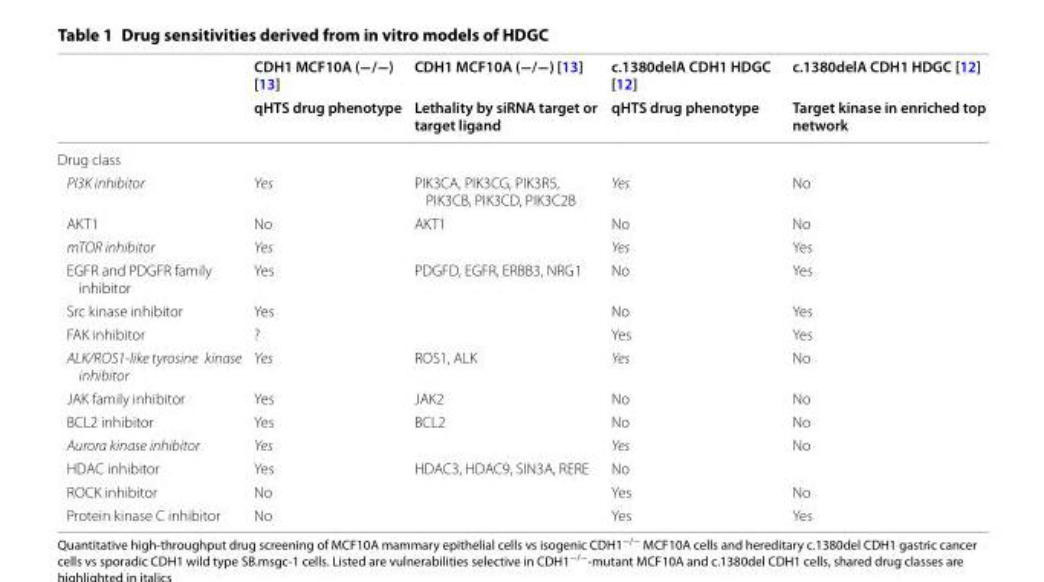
<table><thead><tr><td rowspan="2"></td><td rowspan="2">CDH1 MCF10A (−/−) [13] qHTS drug phenotype</td><td rowspan="2">CDH1 MCF10A (−/−) [13] Lethality by siRNA target or target ligand</td><td rowspan="2">c.1380delA CDH1 HDGC [12] qHTS drug phenotype</td><td rowspan="2">c.1380delA CDH1 HDGC [12] Target kinase in enriched top network</td></tr><tr></tr></thead><tbody><tr><td colspan="5">Drug class</td></tr><tr><td>PI3K inhibitor</td><td>Yes</td><td>PIK3CA, PIK3CG, PIK3R5, PIK3CB, PIK3CD, PIK3C2B</td><td>Yes</td><td>No</td></tr><tr><td>AKT1</td><td>No</td><td>AKT1</td><td>No</td><td>No</td></tr><tr><td>mTOR inhibitor</td><td>Yes</td><td></td><td>Yes</td><td>Yes</td></tr><tr><td>EGFR and PDGFR family inhibitor</td><td>Yes</td><td>PDGFD, EGFR, ERBB3, NRG1</td><td>No</td><td>Yes</td></tr><tr><td>Src kinase inhibitor</td><td>Yes</td><td></td><td>No</td><td>Yes</td></tr><tr><td>FAK inhibitor</td><td>?</td><td></td><td>Yes</td><td>Yes</td></tr><tr><td>ALK/ROS1-like tyrosine kinase inhibitor</td><td>Yes</td><td>ROS1, ALK</td><td>Yes</td><td>No</td></tr><tr><td>JAK family inhibitor</td><td>Yes</td><td>JAK2</td><td>No</td><td>No</td></tr><tr><td>BCL2 inhibitor</td><td>Yes</td><td>BCL2</td><td>No</td><td>No</td></tr><tr><td>Aurora kinase inhibitor</td><td>Yes</td><td></td><td>Yes</td><td>No</td></tr><tr><td>HDAC inhibitor</td><td>Yes</td><td>HDAC3, HDAC9, SIN3A, RERE</td><td>No</td><td></td></tr><tr><td>ROCK inhibitor</td><td>No</td><td></td><td>Yes</td><td>No</td></tr><tr><td>Protein kinase C inhibitor</td><td>No</td><td></td><td>Yes</td><td>Yes</td></tr></tbody></table>